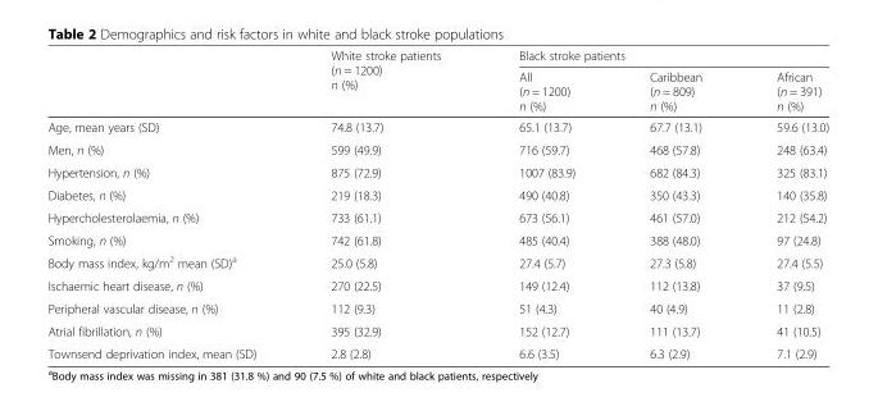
<table><thead><tr><td rowspan="2"></td><td rowspan="2">White stroke patients (n = 1200) n (%)</td><td colspan="3">Black stroke patients</td></tr><tr><td>All (n = 1200) n (%)</td><td>Caribbean (n = 809) n (%)</td><td>African (n = 391) n (%)</td></tr></thead><tbody><tr><td>Age, mean years (SD)</td><td>74.8 (13.7)</td><td>65.1 (13.7)</td><td>67.7 (13.1)</td><td>59.6 (13.0)</td></tr><tr><td>Men, n (%)</td><td>599 (49.9)</td><td>716 (59.7)</td><td>468 (57.8)</td><td>248 (63.4)</td></tr><tr><td>Hypertension, n (%)</td><td>875 (72.9)</td><td>1007 (83.9)</td><td>682 (84.3)</td><td>325 (83.1)</td></tr><tr><td>Diabetes, n (%)</td><td>219 (18.3)</td><td>490 (40.8)</td><td>350 (43.3)</td><td>140 (35.8)</td></tr><tr><td>Hypercholesterolaemia, n (%)</td><td>733 (61.1)</td><td>673 (56.1)</td><td>461 (57.0)</td><td>212 (54.2)</td></tr><tr><td>Smoking, n (%)</td><td>742 (61.8)</td><td>485 (40.4)</td><td>388 (48.0)</td><td>97 (24.8)</td></tr><tr><td>Body mass index, kg/m<sup>2</sup> mean (SD)<sup>a</sup></td><td>25.0 (5.8)</td><td>27.4 (5.7)</td><td>27.3 (5.8)</td><td>27.4 (5.5)</td></tr><tr><td>Ischaemic heart disease, n (%)</td><td>270 (22.5)</td><td>149 (12.4)</td><td>112 (13.8)</td><td>37 (9.5)</td></tr><tr><td>Peripheral vascular disease, n (%)</td><td>112 (9.3)</td><td>51 (4.3)</td><td>40 (4.9)</td><td>11 (2.8)</td></tr><tr><td>Atrial fibrillation, n (%)</td><td>395 (32.9)</td><td>152 (12.7)</td><td>111 (13.7)</td><td>41 (10.5)</td></tr><tr><td>Townsend deprivation index, mean (SD)</td><td>2.8 (2.8)</td><td>6.6 (3.5)</td><td>6.3 (2.9)</td><td>7.1 (2.9)</td></tr></tbody></table>